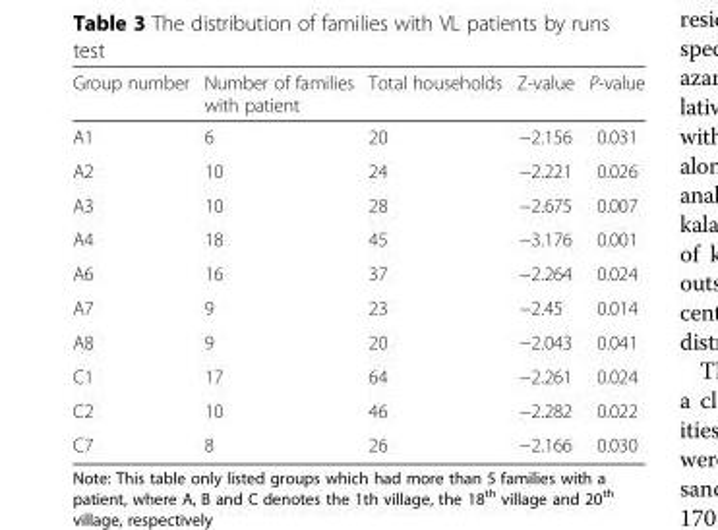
<table><thead><tr><td>Group number</td><td>Number of families with patient</td><td>Total households</td><td>Z-value</td><td>P-value</td></tr></thead><tbody><tr><td>A1</td><td>6</td><td>20</td><td>−2.156</td><td>0.031</td></tr><tr><td>A2</td><td>10</td><td>24</td><td>−2.221</td><td>0.026</td></tr><tr><td>A3</td><td>10</td><td>28</td><td>−2.675</td><td>0.007</td></tr><tr><td>A4</td><td>18</td><td>45</td><td>−3.176</td><td>0.001</td></tr><tr><td>A6</td><td>16</td><td>37</td><td>−2.264</td><td>0.024</td></tr><tr><td>A7</td><td>9</td><td>23</td><td>−2.45</td><td>0.014</td></tr><tr><td>A8</td><td>9</td><td>20</td><td>−2.043</td><td>0.041</td></tr><tr><td>C1</td><td>17</td><td>64</td><td>−2.261</td><td>0.024</td></tr><tr><td>C2</td><td>10</td><td>46</td><td>−2.282</td><td>0.022</td></tr><tr><td>C7</td><td>8</td><td>26</td><td>−2.166</td><td>0.030</td></tr></tbody></table>